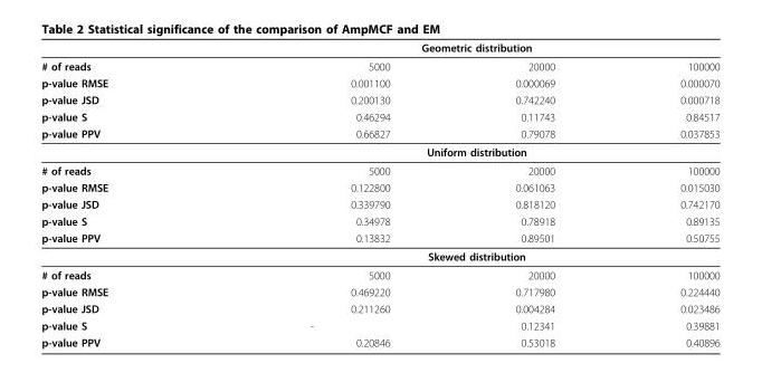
<table><thead><tr><td rowspan="2"># of reads</td><td colspan="3">Geometric distribution</td></tr><tr><td>5000</td><td>20000</td><td>100000</td></tr></thead><tbody><tr><td>p-value RMSE</td><td>0.001100</td><td>0.000069</td><td>0.000070</td></tr><tr><td>p-value JSD</td><td>0.200130</td><td>0.742240</td><td>0.000718</td></tr><tr><td>p-value S</td><td>0.46294</td><td>0.11743</td><td>0.84517</td></tr><tr><td rowspan="2">p-value PPV</td><td>0.66827</td><td>0.79078</td><td>0.037853</td></tr><tr><td colspan="3">Uniform distribution</td></tr><tr><td># of reads</td><td>5000</td><td>20000</td><td>100000</td></tr><tr><td>p-value RMSE</td><td>0.122800</td><td>0.061063</td><td>0.015030</td></tr><tr><td>p-value JSD</td><td>0.339790</td><td>0.818120</td><td>0.742170</td></tr><tr><td>p-value S</td><td>0.34978</td><td>0.78918</td><td>0.89135</td></tr><tr><td rowspan="2">p-value PPV</td><td>0.13832</td><td>0.89501</td><td>0.50755</td></tr><tr><td colspan="3">Skewed distribution</td></tr><tr><td># of reads</td><td>5000</td><td>20000</td><td>100000</td></tr><tr><td>p-value RMSE</td><td>0.469220</td><td>0.717980</td><td>0.224440</td></tr><tr><td>p-value JSD</td><td>0.211260</td><td>0.004284</td><td>0.023486</td></tr><tr><td>p-value S</td><td>-</td><td>0.12341</td><td>0.39881</td></tr><tr><td>p-value PPV</td><td>0.20846</td><td>0.53018</td><td>0.40896</td></tr></tbody></table>